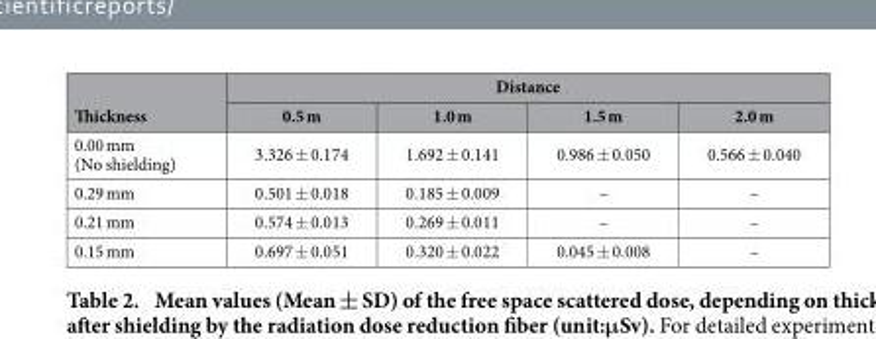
<table><thead><tr><td rowspan="2">Thickness</td><td colspan="4">Distance</td></tr><tr><td>0.5 m</td><td>1.0 m</td><td>1.5 m</td><td>2.0 m</td></tr></thead><tbody><tr><td>0.00 mm (No shielding)</td><td>3.326 ± 0.174</td><td>1.692 ± 0.141</td><td>0.986 ± 0.050</td><td>0.566 ± 0.040</td></tr><tr><td>0.29 mm</td><td>0.501 ± 0.018</td><td>0.185 ± 0.009</td><td>–</td><td>–</td></tr><tr><td>0.21 mm</td><td>0.574 ± 0.013</td><td>0.269 ± 0.011</td><td>–</td><td>–</td></tr><tr><td>0.15 mm</td><td>0.697 ± 0.051</td><td>0.320 ± 0.022</td><td>0.045 ± 0.008</td><td>–</td></tr></tbody></table>